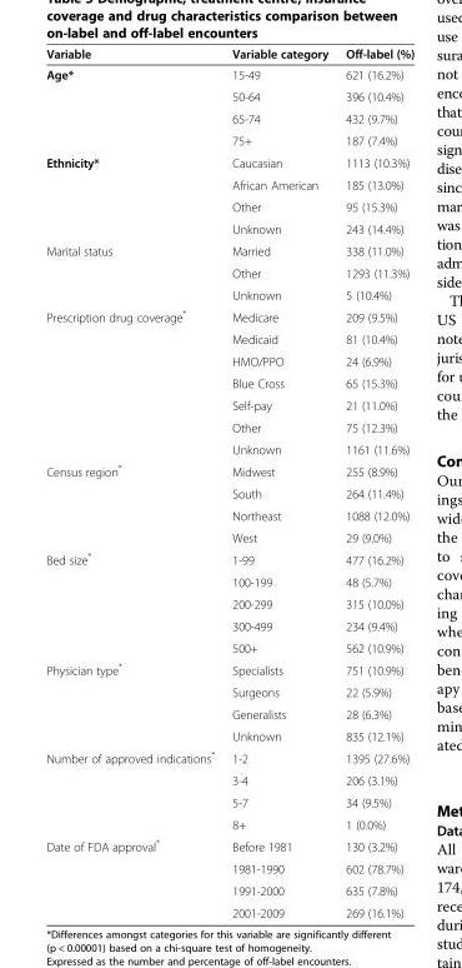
<table><thead><tr><td>Variable</td><td>Variable category</td><td>Off-label (%)</td></tr></thead><tbody><tr><td rowspan="4">Age*</td><td>15-49</td><td>621 (16.2%)</td></tr><tr><td>50-64</td><td>396 (10.4%)</td></tr><tr><td>65-74</td><td>432 (9.7%)</td></tr><tr><td>75+</td><td>187 (7.4%)</td></tr><tr><td rowspan="4">Ethnicity*</td><td>Caucasian</td><td>1113 (10.3%)</td></tr><tr><td>African American</td><td>185 (13.0%)</td></tr><tr><td>Other</td><td>95 (15.3%)</td></tr><tr><td>Unknown</td><td>243 (14.4%)</td></tr><tr><td rowspan="3">Marital status</td><td>Married</td><td>338 (11.0%)</td></tr><tr><td>Other</td><td>1293 (11.3%)</td></tr><tr><td>Unknown</td><td>5 (10.4%)</td></tr><tr><td rowspan="7">Prescription drug coverage*</td><td>Medicare</td><td>209 (9.5%)</td></tr><tr><td>Medicaid</td><td>81 (10.4%)</td></tr><tr><td>HMO/PPO</td><td>24 (6.9%)</td></tr><tr><td>Blue Cross</td><td>65 (15.3%)</td></tr><tr><td>Self-pay</td><td>21 (11.0%)</td></tr><tr><td>Other</td><td>75 (12.3%)</td></tr><tr><td>Unknown</td><td>1161 (11.6%)</td></tr><tr><td rowspan="4">Census region*</td><td>Midwest</td><td>255 (8.9%)</td></tr><tr><td>South</td><td>264 (11.4%)</td></tr><tr><td>Northeast</td><td>1088 (12.0%)</td></tr><tr><td>West</td><td>29 (9.0%)</td></tr><tr><td rowspan="5">Bed size*</td><td>1-99</td><td>477 (16.2%)</td></tr><tr><td>100-199</td><td>48 (5.7%)</td></tr><tr><td>200-299</td><td>315 (10.0%)</td></tr><tr><td>300-499</td><td>234 (9.4%)</td></tr><tr><td>500+</td><td>562 (10.9%)</td></tr><tr><td rowspan="4">Physician type*</td><td>Specialists</td><td>751 (10.9%)</td></tr><tr><td>Surgeons</td><td>22 (5.9%)</td></tr><tr><td>Generalists</td><td>28 (6.3%)</td></tr><tr><td>Unknown</td><td>835 (12.1%)</td></tr><tr><td rowspan="4">Number of approved indications*</td><td>1-2</td><td>1395 (27.6%)</td></tr><tr><td>3-4</td><td>206 (3.1%)</td></tr><tr><td>5-7</td><td>34 (9.5%)</td></tr><tr><td>8+</td><td>1 (0.0%)</td></tr><tr><td rowspan="4">Date of FDA approval*</td><td>Before 1981</td><td>130 (3.2%)</td></tr><tr><td>1981-1990</td><td>602 (78.7%)</td></tr><tr><td>1991-2000</td><td>635 (7.8%)</td></tr><tr><td>2001-2009</td><td>269 (16.1%)</td></tr></tbody></table>